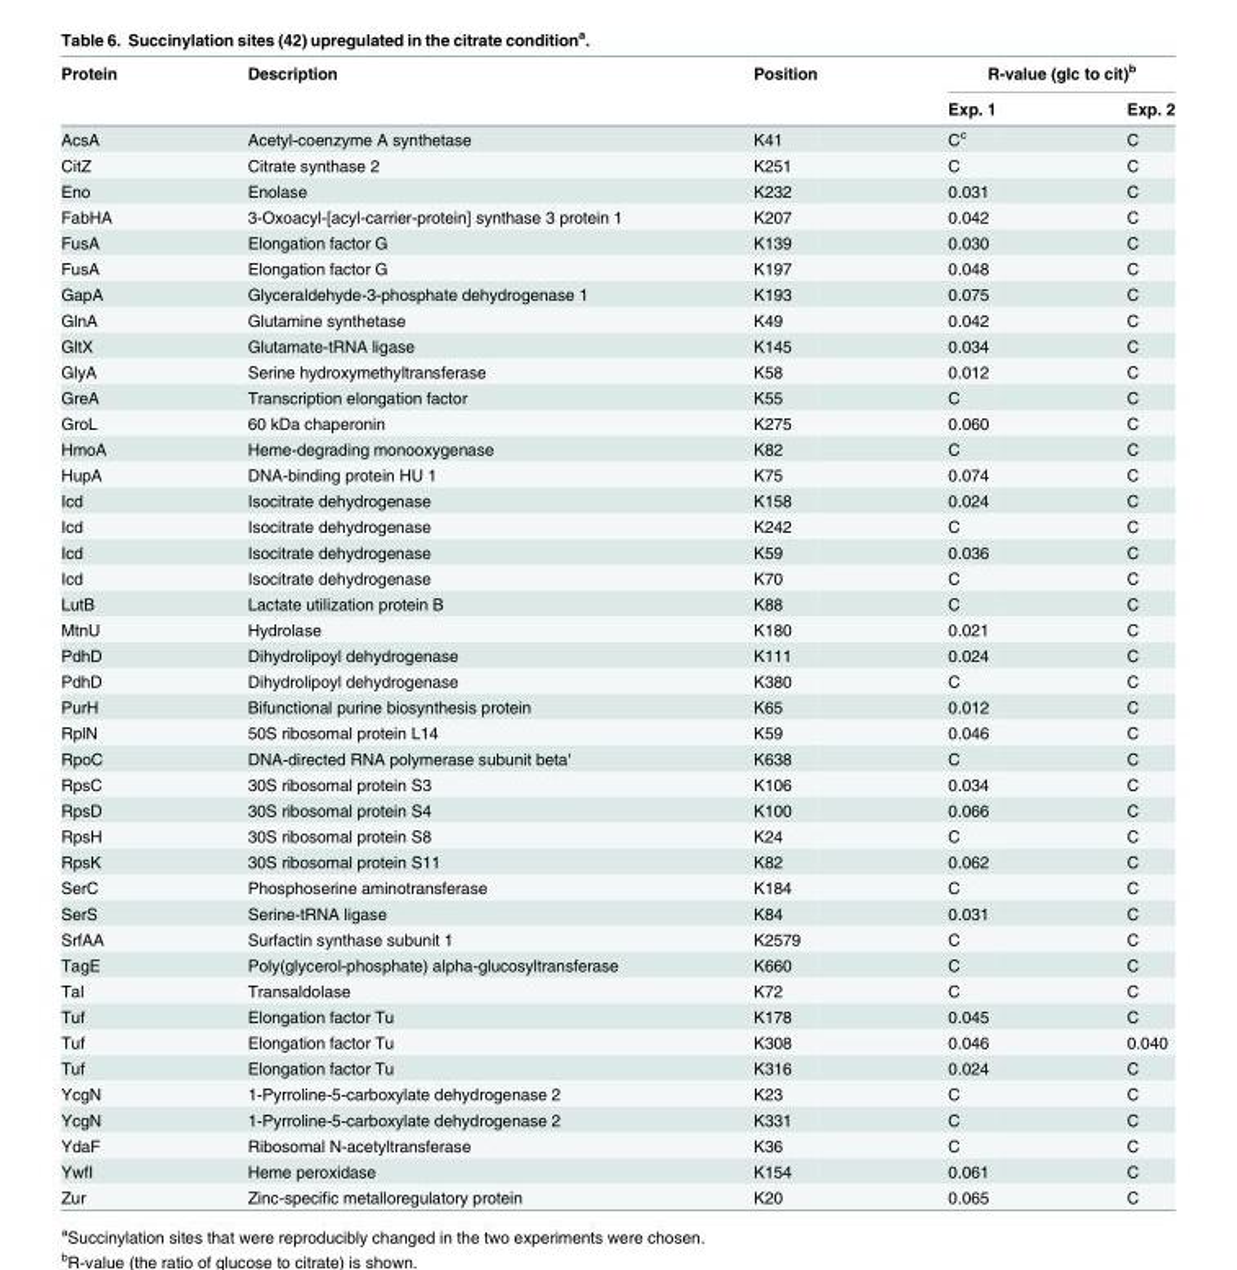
<table><thead><tr><td rowspan="2">Protein</td><td rowspan="2">Description</td><td rowspan="2">Position</td><td colspan="2">R-value (glc to cit)<sup>b</sup></td></tr><tr><td>Exp. 1</td><td>Exp. 2</td></tr></thead><tbody><tr><td>AcsA</td><td>Acetyl-coenzyme A synthetase</td><td>K41</td><td>C<sup>c</sup></td><td>C</td></tr><tr><td>CitZ</td><td>Citrate synthase 2</td><td>K251</td><td>C</td><td>C</td></tr><tr><td>Eno</td><td>Enolase</td><td>K232</td><td>0.031</td><td>C</td></tr><tr><td>FabHA</td><td>3-Oxoacyl-[acyl-carrier-protein] synthase 3 protein 1</td><td>K207</td><td>0.042</td><td>C</td></tr><tr><td>FusA</td><td>Elongation factor G</td><td>K139</td><td>0.030</td><td>C</td></tr><tr><td>FusA</td><td>Elongation factor G</td><td>K197</td><td>0.048</td><td>C</td></tr><tr><td>GapA</td><td>Glyceraldehyde-3-phosphate dehydrogenase 1</td><td>K193</td><td>0.075</td><td>C</td></tr><tr><td>GlnA</td><td>Glutamine synthetase</td><td>K49</td><td>0.042</td><td>C</td></tr><tr><td>GltX</td><td>Glutamate-tRNA ligase</td><td>K145</td><td>0.034</td><td>C</td></tr><tr><td>GlyA</td><td>Serine hydroxymethyltransferase</td><td>K58</td><td>0.012</td><td>C</td></tr><tr><td>GreA</td><td>Transcription elongation factor</td><td>K55</td><td>C</td><td>C</td></tr><tr><td>GroL</td><td>60 kDa chaperonin</td><td>K275</td><td>0.060</td><td>C</td></tr><tr><td>HmoA</td><td>Heme-degrading monooxygenase</td><td>K82</td><td>C</td><td>C</td></tr><tr><td>HupA</td><td>DNA-binding protein HU 1</td><td>K75</td><td>0.074</td><td>C</td></tr><tr><td>Icd</td><td>Isocitrate dehydrogenase</td><td>K158</td><td>0.024</td><td>C</td></tr><tr><td>Icd</td><td>Isocitrate dehydrogenase</td><td>K242</td><td>C</td><td>C</td></tr><tr><td>Icd</td><td>Isocitrate dehydrogenase</td><td>K59</td><td>0.036</td><td>C</td></tr><tr><td>Icd</td><td>Isocitrate dehydrogenase</td><td>K70</td><td>C</td><td>C</td></tr><tr><td>LutB</td><td>Lactate utilization protein B</td><td>K88</td><td>C</td><td>C</td></tr><tr><td>MtnU</td><td>Hydrolase</td><td>K180</td><td>0.021</td><td>C</td></tr><tr><td>PdhD</td><td>Dihydrolipoyl dehydrogenase</td><td>K111</td><td>0.024</td><td>C</td></tr><tr><td>PdhD</td><td>Dihydrolipoyl dehydrogenase</td><td>K380</td><td>C</td><td>C</td></tr><tr><td>PurH</td><td>Bifunctional purine biosynthesis protein</td><td>K65</td><td>0.012</td><td>C</td></tr><tr><td>RplN</td><td>50S ribosomal protein L14</td><td>K59</td><td>0.046</td><td>C</td></tr><tr><td>RpoC</td><td>DNA-directed RNA polymerase subunit beta&#x27;</td><td>K638</td><td>C</td><td>C</td></tr><tr><td>RpsC</td><td>30S ribosomal protein S3</td><td>K106</td><td>0.034</td><td>C</td></tr><tr><td>RpsD</td><td>30S ribosomal protein S4</td><td>K100</td><td>0.066</td><td>C</td></tr><tr><td>RpsH</td><td>30S ribosomal protein S8</td><td>K24</td><td>C</td><td>C</td></tr><tr><td>RpsK</td><td>30S ribosomal protein S11</td><td>K82</td><td>0.062</td><td>C</td></tr><tr><td>SerC</td><td>Phosphoserine aminotransferase</td><td>K184</td><td>C</td><td>C</td></tr><tr><td>SerS</td><td>Serine-tRNA ligase</td><td>K84</td><td>0.031</td><td>C</td></tr><tr><td>SrfAA</td><td>Surfactin synthase subunit 1</td><td>K2579</td><td>C</td><td>C</td></tr><tr><td>TagE</td><td>Poly(glycerol-phosphate) alpha-glucosyltransferase</td><td>K660</td><td>C</td><td>C</td></tr><tr><td>Tal</td><td>Transaldolase</td><td>K72</td><td>C</td><td>C</td></tr><tr><td>Tuf</td><td>Elongation factor Tu</td><td>K178</td><td>0.045</td><td>C</td></tr><tr><td>Tuf</td><td>Elongation factor Tu</td><td>K308</td><td>0.046</td><td>0.040</td></tr><tr><td>Tuf</td><td>Elongation factor Tu</td><td>K316</td><td>0.024</td><td>C</td></tr><tr><td>YcgN</td><td>1-Pyrroline-5-carboxylate dehydrogenase 2</td><td>K23</td><td>C</td><td>C</td></tr><tr><td>YcgN</td><td>1-Pyrroline-5-carboxylate dehydrogenase 2</td><td>K331</td><td>C</td><td>C</td></tr><tr><td>YdaF</td><td>Ribosomal N-acetyltransferase</td><td>K36</td><td>C</td><td>C</td></tr><tr><td>YwfI</td><td>Heme peroxidase</td><td>K154</td><td>0.061</td><td>C</td></tr><tr><td>Zur</td><td>Zinc-specific metalloregulatory protein</td><td>K20</td><td>0.065</td><td>C</td></tr></tbody></table>